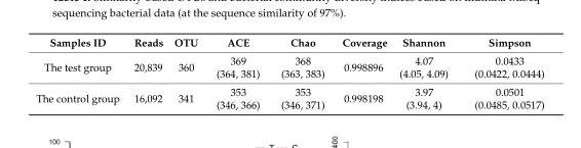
<table><thead><tr><td>Samples ID</td><td>Reads</td><td>OTU</td><td>ACE</td><td>Chao</td><td>Coverage</td><td>Shannon</td><td>Simpson</td></tr></thead><tbody><tr><td>The test group</td><td>20,839</td><td>360</td><td>369 (364, 381)</td><td>368 (363, 383)</td><td>0.998896</td><td>4.07 (4.05, 4.09)</td><td>0.0433 (0.0422, 0.0444)</td></tr><tr><td>The control group</td><td>16,092</td><td>341</td><td>353 (346, 366)</td><td>353 (346, 371)</td><td>0.998198</td><td>3.97 (3.94, 4)</td><td>0.0501 (0.0485, 0.0517)</td></tr></tbody></table>